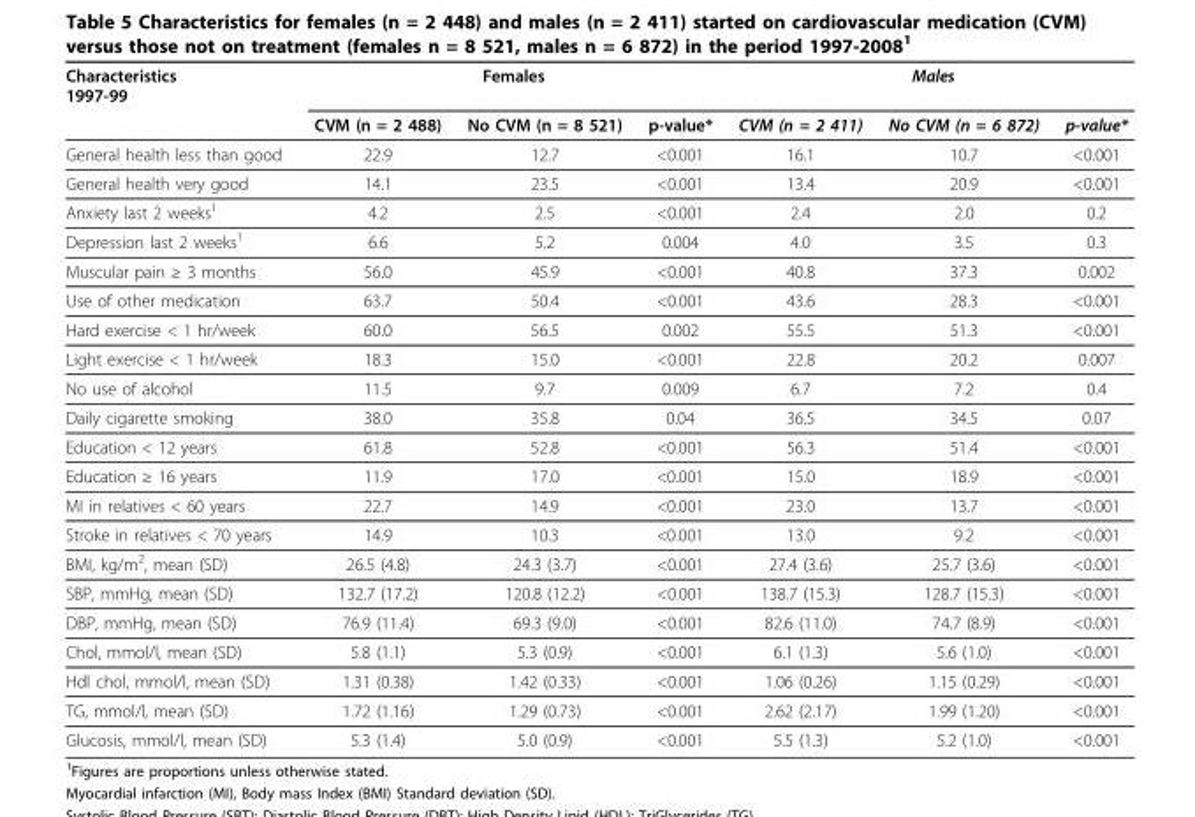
<table><thead><tr><td rowspan="2">Characteristics 1997-99</td><td colspan="3">Females</td><td colspan="3">Males</td></tr><tr><td>CVM (n = 2 488)</td><td>No CVM (n = 8 521)</td><td>p-value*</td><td>CVM (n = 2 411)</td><td>No CVM (n = 6 872)</td><td>p-value*</td></tr></thead><tbody><tr><td>General health less than good</td><td>22.9</td><td>12.7</td><td>&lt;0.001</td><td>16.1</td><td>10.7</td><td>&lt;0.001</td></tr><tr><td>General health very good</td><td>14.1</td><td>23.5</td><td>&lt;0.001</td><td>13.4</td><td>20.9</td><td>&lt;0.001</td></tr><tr><td>Anxiety last 2 weeks<sup>1</sup></td><td>4.2</td><td>2.5</td><td>&lt;0.001</td><td>2.4</td><td>2.0</td><td>0.2</td></tr><tr><td>Depression last 2 weeks<sup>1</sup></td><td>6.6</td><td>5.2</td><td>0.004</td><td>4.0</td><td>3.5</td><td>0.3</td></tr><tr><td>Muscular pain ≥ 3 months</td><td>56.0</td><td>45.9</td><td>&lt;0.001</td><td>40.8</td><td>37.3</td><td>0.002</td></tr><tr><td>Use of other medication</td><td>63.7</td><td>50.4</td><td>&lt;0.001</td><td>43.6</td><td>28.3</td><td>&lt;0.001</td></tr><tr><td>Hard exercise &lt; 1 hr/week</td><td>60.0</td><td>56.5</td><td>0.002</td><td>55.5</td><td>51.3</td><td>&lt;0.001</td></tr><tr><td>Light exercise &lt; 1 hr/week</td><td>18.3</td><td>15.0</td><td>&lt;0.001</td><td>22.8</td><td>20.2</td><td>0.007</td></tr><tr><td>No use of alcohol</td><td>11.5</td><td>9.7</td><td>0.009</td><td>6.7</td><td>7.2</td><td>0.4</td></tr><tr><td>Daily cigarette smoking</td><td>38.0</td><td>35.8</td><td>0.04</td><td>36.5</td><td>34.5</td><td>0.07</td></tr><tr><td>Education &lt; 12 years</td><td>61.8</td><td>52.8</td><td>&lt;0.001</td><td>56.3</td><td>51.4</td><td>&lt;0.001</td></tr><tr><td>Education ≥ 16 years</td><td>11.9</td><td>17.0</td><td>&lt;0.001</td><td>15.0</td><td>18.9</td><td>&lt;0.001</td></tr><tr><td>MI in relatives &lt; 60 years</td><td>22.7</td><td>14.9</td><td>&lt;0.001</td><td>23.0</td><td>13.7</td><td>&lt;0.001</td></tr><tr><td>Stroke in relatives &lt; 70 years</td><td>14.9</td><td>10.3</td><td>&lt;0.001</td><td>13.0</td><td>9.2</td><td>&lt;0.001</td></tr><tr><td>BMI, kg/m<sup>2</sup>, mean (SD)</td><td>26.5 (4.8)</td><td>24.3 (3.7)</td><td>&lt;0.001</td><td>27.4 (3.6)</td><td>25.7 (3.6)</td><td>&lt;0.001</td></tr><tr><td>SBP, mmHg, mean (SD)</td><td>132.7 (17.2)</td><td>120.8 (12.2)</td><td>&lt;0.001</td><td>138.7 (15.3)</td><td>128.7 (15.3)</td><td>&lt;0.001</td></tr><tr><td>DBP, mmHg, mean (SD)</td><td>76.9 (11.4)</td><td>69.3 (9.0)</td><td>&lt;0.001</td><td>82.6 (11.0)</td><td>74.7 (8.9)</td><td>&lt;0.001</td></tr><tr><td>Chol, mmol/l, mean (SD)</td><td>5.8 (1.1)</td><td>5.3 (0.9)</td><td>&lt;0.001</td><td>6.1 (1.3)</td><td>5.6 (1.0)</td><td>&lt;0.001</td></tr><tr><td>Hdl chol, mmol/l, mean (SD)</td><td>1.31 (0.38)</td><td>1.42 (0.33)</td><td>&lt;0.001</td><td>1.06 (0.26)</td><td>1.15 (0.29)</td><td>&lt;0.001</td></tr><tr><td>TG, mmol/l, mean (SD)</td><td>1.72 (1.16)</td><td>1.29 (0.73)</td><td>&lt;0.001</td><td>2.62 (2.17)</td><td>1.99 (1.20)</td><td>&lt;0.001</td></tr><tr><td>Glucosis, mmol/l, mean (SD)</td><td>5.3 (1.4)</td><td>5.0 (0.9)</td><td>&lt;0.001</td><td>5.5 (1.3)</td><td>5.2 (1.0)</td><td>&lt;0.001</td></tr></tbody></table>